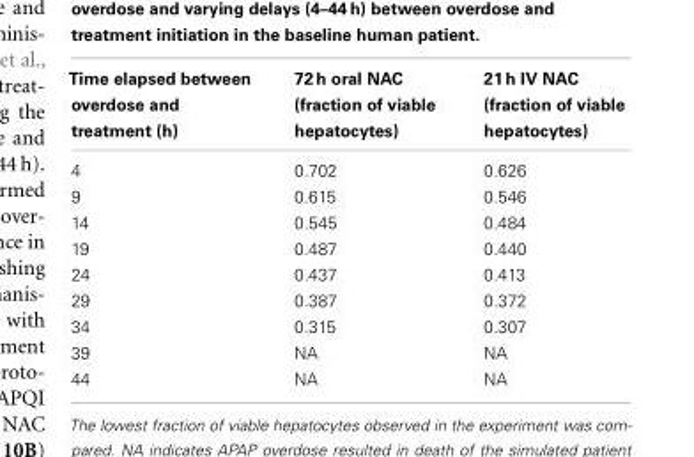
<table><thead><tr><td>Time elapsed between overdose and treatment (h)</td><td>72 h oral NAC (fraction of viable hepatocytes)</td><td>21 h IV NAC (fraction of viable hepatocytes)</td></tr></thead><tbody><tr><td>4</td><td>0.702</td><td>0.626</td></tr><tr><td>9</td><td>0.615</td><td>0.546</td></tr><tr><td>14</td><td>0.545</td><td>0.484</td></tr><tr><td>19</td><td>0.487</td><td>0.440</td></tr><tr><td>24</td><td>0.437</td><td>0.413</td></tr><tr><td>29</td><td>0.387</td><td>0.372</td></tr><tr><td>34</td><td>0.315</td><td>0.307</td></tr><tr><td>39</td><td>NA</td><td>NA</td></tr><tr><td>44</td><td>NA</td><td>NA</td></tr></tbody></table>